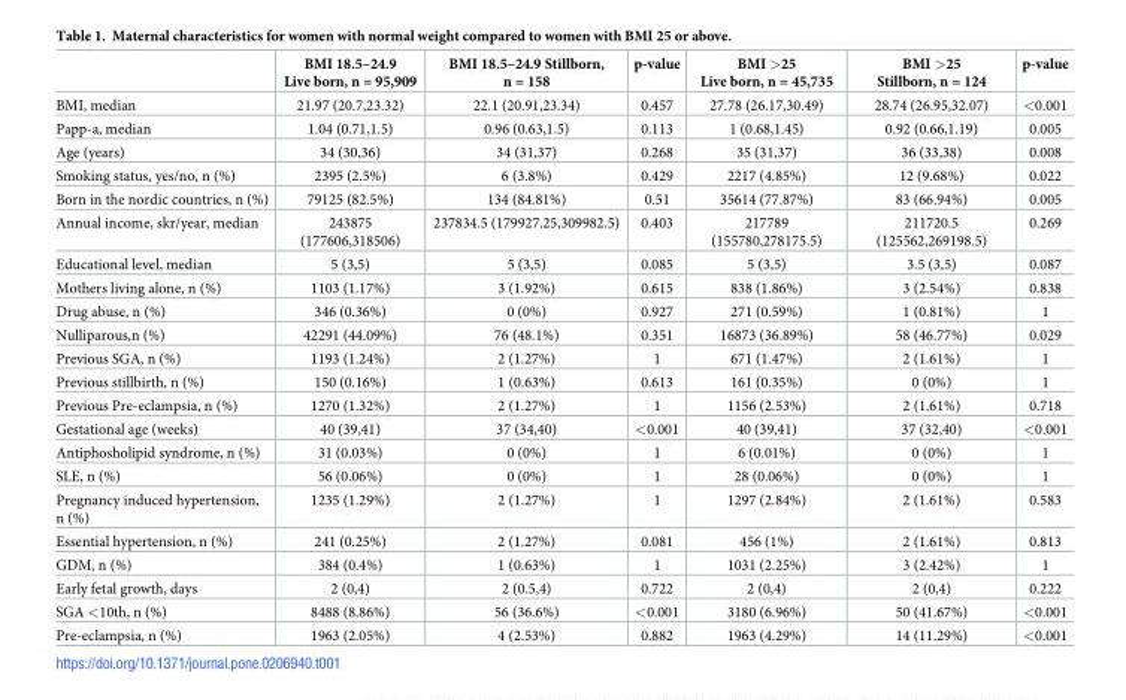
<table><thead><tr><td></td><td>BMI 18.5–24.9 Live born, n = 95,909</td><td>BMI 18.5–24.9 Stillborn, n = 158</td><td>p-value</td><td>BMI &gt;25 Live born, n = 45,735</td><td>BMI &gt;25 Stillborn, n = 124</td><td>p-value</td></tr></thead><tbody><tr><td>BMI, median</td><td>21.97 (20.7,23.32)</td><td>22.1 (20.91,23.34)</td><td>0.457</td><td>27.78 (26.17,30.49)</td><td>28.74 (26.95,32.07)</td><td>&lt;0.001</td></tr><tr><td>Papp-a, median</td><td>1.04 (0.71,1.5)</td><td>0.96 (0.63,1.5)</td><td>0.113</td><td>1 (0.68,1.45)</td><td>0.92 (0.66,1.19)</td><td>0.005</td></tr><tr><td>Age (years)</td><td>34 (30,36)</td><td>34 (31,37)</td><td>0.268</td><td>35 (31,37)</td><td>36 (33,38)</td><td>0.008</td></tr><tr><td>Smoking status, yes/no, n (%)</td><td>2395 (2.5%)</td><td>6 (3.8%)</td><td>0.429</td><td>2217 (4.85%)</td><td>12 (9.68%)</td><td>0.022</td></tr><tr><td>Born in the nordic countries, n (%)</td><td>79125 (82.5%)</td><td>134 (84.81%)</td><td>0.51</td><td>35614 (77.87%)</td><td>83 (66.94%)</td><td>0.005</td></tr><tr><td>Annual income, skr/year, median</td><td>243875 (177606,318506)</td><td>237834.5 (179927.25,309982.5)</td><td>0.403</td><td>217789 (155780,278175.5)</td><td>211720.5 (125562,269198.5)</td><td>0.269</td></tr><tr><td>Educational level, median</td><td>5 (3,5)</td><td>5 (3,5)</td><td>0.085</td><td>5 (3,5)</td><td>3.5 (3,5)</td><td>0.087</td></tr><tr><td>Mothers living alone, n (%)</td><td>1103 (1.17%)</td><td>3 (1.92%)</td><td>0.615</td><td>838 (1.86%)</td><td>3 (2.54%)</td><td>0.838</td></tr><tr><td>Drug abuse, n (%)</td><td>346 (0.36%)</td><td>0 (0%)</td><td>0.927</td><td>271 (0.59%)</td><td>1 (0.81%)</td><td>1</td></tr><tr><td>Nulliparous,n (%)</td><td>42291 (44.09%)</td><td>76 (48.1%)</td><td>0.351</td><td>16873 (36.89%)</td><td>58 (46.77%)</td><td>0.029</td></tr><tr><td>Previous SGA, n (%)</td><td>1193 (1.24%)</td><td>2 (1.27%)</td><td>1</td><td>671 (1.47%)</td><td>2 (1.61%)</td><td>1</td></tr><tr><td>Previous stillbirth, n (%)</td><td>150 (0.16%)</td><td>1 (0.63%)</td><td>0.613</td><td>161 (0.35%)</td><td>0 (0%)</td><td>1</td></tr><tr><td>Previous Pre-eclampsia, n (%)</td><td>1270 (1.32%)</td><td>2 (1.27%)</td><td>1</td><td>1156 (2.53%)</td><td>2 (1.61%)</td><td>0.718</td></tr><tr><td>Gestational age (weeks)</td><td>40 (39,41)</td><td>37 (34,40)</td><td>&lt;0.001</td><td>40 (39,41)</td><td>37 (32,40)</td><td>&lt;0.001</td></tr><tr><td>Antiphosholipid syndrome, n (%)</td><td>31 (0.03%)</td><td>0 (0%)</td><td>1</td><td>6 (0.01%)</td><td>0 (0%)</td><td>1</td></tr><tr><td>SLE, n (%)</td><td>56 (0.06%)</td><td>0 (0%)</td><td>1</td><td>28 (0.06%)</td><td>0 (0%)</td><td>1</td></tr><tr><td>Pregnancy induced hypertension, n (%)</td><td>1235 (1.29%)</td><td>2 (1.27%)</td><td>1</td><td>1297 (2.84%)</td><td>2 (1.61%)</td><td>0.583</td></tr><tr><td>Essential hypertension, n (%)</td><td>241 (0.25%)</td><td>2 (1.27%)</td><td>0.081</td><td>456 (1%)</td><td>2 (1.61%)</td><td>0.813</td></tr><tr><td>GDM, n (%)</td><td>384 (0.4%)</td><td>1 (0.63%)</td><td>1</td><td>1031 (2.25%)</td><td>3 (2.42%)</td><td>1</td></tr><tr><td>Early fetal growth, days</td><td>2 (0,4)</td><td>2 (0.5,4)</td><td>0.722</td><td>2 (0,4)</td><td>2 (0,4)</td><td>0.222</td></tr><tr><td>SGA &lt;10th, n (%)</td><td>8488 (8.86%)</td><td>56 (36.6%)</td><td>&lt;0.001</td><td>3180 (6.96%)</td><td>50 (41.67%)</td><td>&lt;0.001</td></tr><tr><td>Pre-eclampsia, n (%)</td><td>1963 (2.05%)</td><td>4 (2.53%)</td><td>0.882</td><td>1963 (4.29%)</td><td>14 (11.29%)</td><td>&lt;0.001</td></tr></tbody></table>